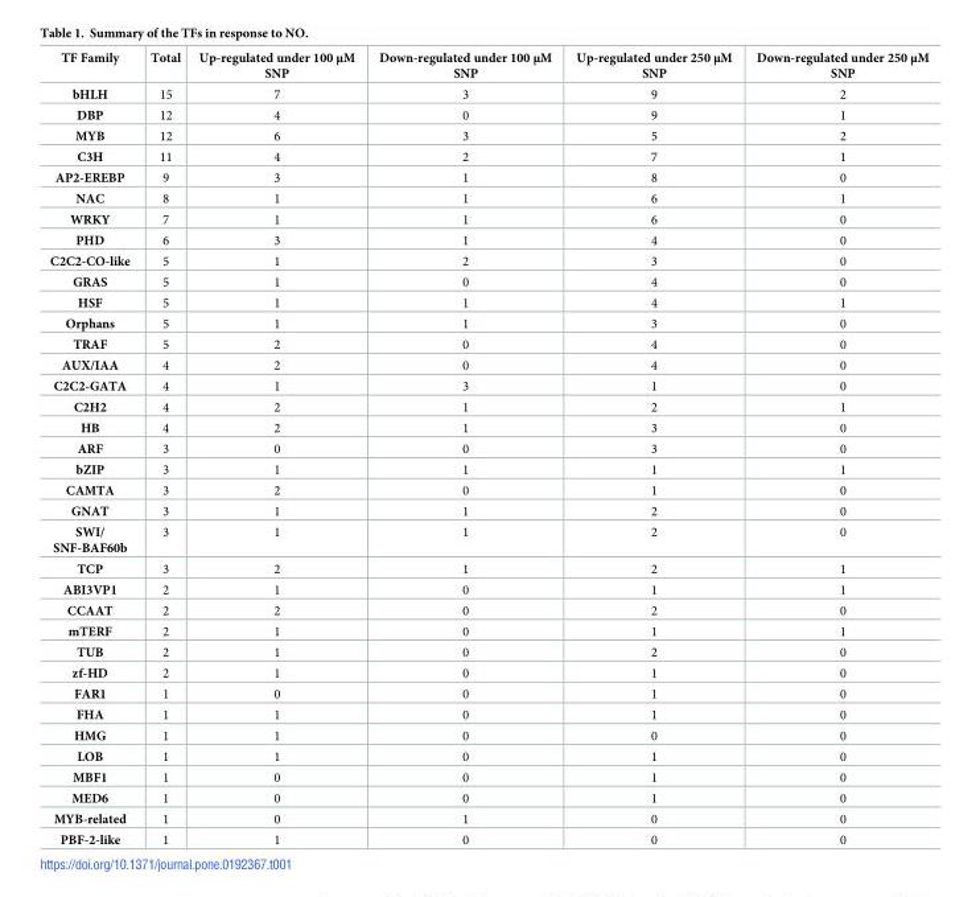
<table><thead><tr><td>TF Family</td><td>Total</td><td>Up-regulated under 100 μM SNP</td><td>Down-regulated under 100 μM SNP</td><td>Up-regulated under 250 μM SNP</td><td>Down-regulated under 250 μM SNP</td></tr></thead><tbody><tr><td>bHLH</td><td>15</td><td>7</td><td>3</td><td>9</td><td>2</td></tr><tr><td>DBP</td><td>12</td><td>4</td><td>0</td><td>9</td><td>1</td></tr><tr><td>MYB</td><td>12</td><td>6</td><td>3</td><td>5</td><td>2</td></tr><tr><td>C3H</td><td>11</td><td>4</td><td>2</td><td>7</td><td>1</td></tr><tr><td>AP2-EREBP</td><td>9</td><td>3</td><td>1</td><td>8</td><td>0</td></tr><tr><td>NAC</td><td>8</td><td>1</td><td>1</td><td>6</td><td>1</td></tr><tr><td>WRKY</td><td>7</td><td>1</td><td>1</td><td>6</td><td>0</td></tr><tr><td>PHD</td><td>6</td><td>3</td><td>1</td><td>4</td><td>0</td></tr><tr><td>C2C2-CO-like</td><td>5</td><td>1</td><td>2</td><td>3</td><td>0</td></tr><tr><td>GRAS</td><td>5</td><td>1</td><td>0</td><td>4</td><td>0</td></tr><tr><td>HSF</td><td>5</td><td>1</td><td>1</td><td>4</td><td>1</td></tr><tr><td>Orphans</td><td>5</td><td>1</td><td>1</td><td>3</td><td>0</td></tr><tr><td>TRAF</td><td>5</td><td>2</td><td>0</td><td>4</td><td>0</td></tr><tr><td>AUX/IAA</td><td>4</td><td>2</td><td>0</td><td>4</td><td>0</td></tr><tr><td>C2C2-GATA</td><td>4</td><td>1</td><td>3</td><td>1</td><td>0</td></tr><tr><td>C2H2</td><td>4</td><td>2</td><td>1</td><td>2</td><td>1</td></tr><tr><td>HB</td><td>4</td><td>2</td><td>1</td><td>3</td><td>0</td></tr><tr><td>ARF</td><td>3</td><td>0</td><td>0</td><td>3</td><td>0</td></tr><tr><td>bZIP</td><td>3</td><td>1</td><td>1</td><td>1</td><td>1</td></tr><tr><td>CAMTA</td><td>3</td><td>2</td><td>0</td><td>1</td><td>0</td></tr><tr><td>GNAT</td><td>3</td><td>1</td><td>1</td><td>2</td><td>0</td></tr><tr><td>SWI/ SNF-BAF60b</td><td>3</td><td>1</td><td>1</td><td>2</td><td>0</td></tr><tr><td>TCP</td><td>3</td><td>2</td><td>1</td><td>2</td><td>1</td></tr><tr><td>ABI3VP1</td><td>2</td><td>1</td><td>0</td><td>1</td><td>1</td></tr><tr><td>CCAAT</td><td>2</td><td>2</td><td>0</td><td>2</td><td>0</td></tr><tr><td>mTERF</td><td>2</td><td>1</td><td>0</td><td>1</td><td>1</td></tr><tr><td>TUB</td><td>2</td><td>1</td><td>0</td><td>2</td><td>0</td></tr><tr><td>zf-HD</td><td>2</td><td>1</td><td>0</td><td>1</td><td>0</td></tr><tr><td>FAR1</td><td>1</td><td>0</td><td>0</td><td>1</td><td>0</td></tr><tr><td>FHA</td><td>1</td><td>1</td><td>0</td><td>1</td><td>0</td></tr><tr><td>HMG</td><td>1</td><td>1</td><td>0</td><td>0</td><td>0</td></tr><tr><td>LOB</td><td>1</td><td>1</td><td>0</td><td>1</td><td>0</td></tr><tr><td>MBF1</td><td>1</td><td>0</td><td>0</td><td>1</td><td>0</td></tr><tr><td>MED6</td><td>1</td><td>0</td><td>0</td><td>1</td><td>0</td></tr><tr><td>MYB-related</td><td>1</td><td>0</td><td>1</td><td>0</td><td>0</td></tr><tr><td>PBF-2-like</td><td>1</td><td>1</td><td>0</td><td>0</td><td>0</td></tr></tbody></table>